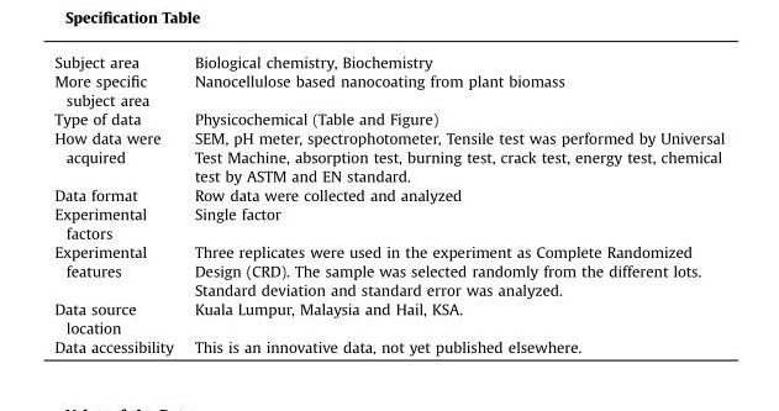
<table><tbody><tr><td>Subject area</td><td>Biological chemistry, Biochemistry</td></tr><tr><td>More specific subject area</td><td>Nanocellulose based nanocoating from plant biomass</td></tr><tr><td>Type of data</td><td>Physicochemical (Table and Figure)</td></tr><tr><td>How data were acquired</td><td>SEM, pH meter, spectrophotometer, Tensile test was performed by Universal Test Machine, absorption test, burning test, crack test, energy test, chemical test by ASTM and EN standard.</td></tr><tr><td>Data format</td><td>Row data were collected and analyzed</td></tr><tr><td>Experimental factors</td><td>Single factor</td></tr><tr><td>Experimental features</td><td>Three replicates were used in the experiment as Complete Randomized Design (CRD). The sample was selected randomly from the different lots. Standard deviation and standard error was analyzed.</td></tr><tr><td>Data source location</td><td>Kuala Lumpur, Malaysia and Hail, KSA.</td></tr><tr><td>Data accessibility</td><td>This is an innovative data, not yet published elsewhere.</td></tr></tbody></table>